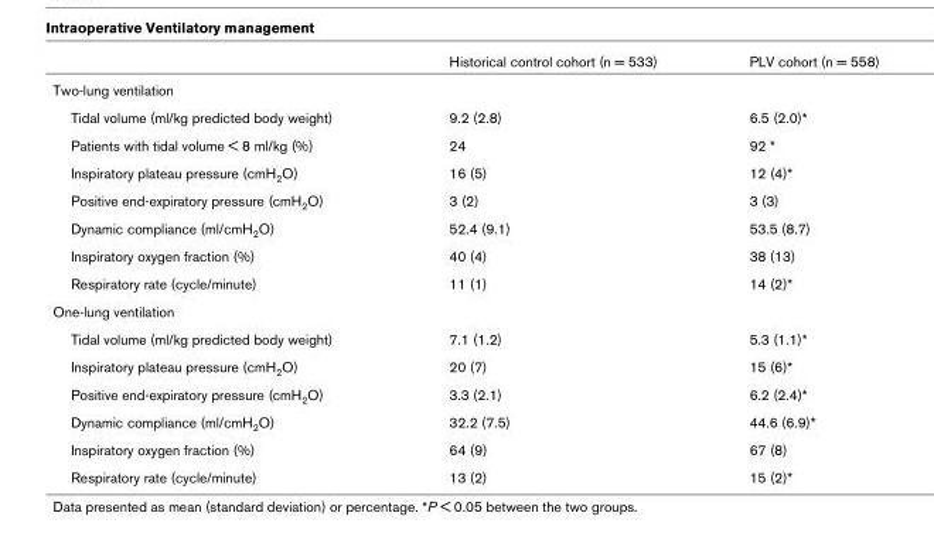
<table><thead><tr><td></td><td>Historical control cohort (n = 533)</td><td>PLV cohort (n = 558)</td></tr></thead><tbody><tr><td colspan="3">Two-lung ventilation</td></tr><tr><td>Tidal volume (ml/kg predicted body weight)</td><td>9.2 (2.8)</td><td>6.5 (2.0)*</td></tr><tr><td>Patients with tidal volume &lt; 8 ml/kg (%)</td><td>24</td><td>92 *</td></tr><tr><td>Inspiratory plateau pressure (cmH<sub>2</sub>O)</td><td>16 (5)</td><td>12 (4)*</td></tr><tr><td>Positive end-expiratory pressure (cmH<sub>2</sub>O)</td><td>3 (2)</td><td>3 (3)</td></tr><tr><td>Dynamic compliance (ml/cmH<sub>2</sub>O)</td><td>52.4 (9.1)</td><td>53.5 (8.7)</td></tr><tr><td>Inspiratory oxygen fraction (%)</td><td>40 (4)</td><td>38 (13)</td></tr><tr><td>Respiratory rate (cycle/minute)</td><td>11 (1)</td><td>14 (2)*</td></tr><tr><td colspan="3">One-lung ventilation</td></tr><tr><td>Tidal volume (ml/kg predicted body weight)</td><td>7.1 (1.2)</td><td>5.3 (1.1)*</td></tr><tr><td>Inspiratory plateau pressure (cmH<sub>2</sub>O)</td><td>20 (7)</td><td>15 (6)*</td></tr><tr><td>Positive end-expiratory pressure (cmH<sub>2</sub>O)</td><td>3.3 (2.1)</td><td>6.2 (2.4)*</td></tr><tr><td>Dynamic compliance (ml/cmH<sub>2</sub>O)</td><td>32.2 (7.5)</td><td>44.6 (6.9)*</td></tr><tr><td>Inspiratory oxygen fraction (%)</td><td>64 (9)</td><td>67 (8)</td></tr><tr><td>Respiratory rate (cycle/minute)</td><td>13 (2)</td><td>15 (2)*</td></tr></tbody></table>